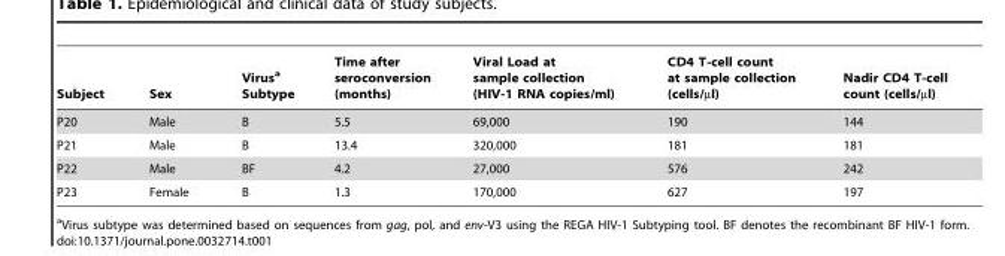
<table><thead><tr><td>Subject</td><td>Sex</td><td>Virus<sup>a</sup> Subtype</td><td>Time after seroconversion (months)</td><td>Viral Load at sample collection (HIV-1 RNA copies/ml)</td><td>CD4 T-cell count at sample collection (cells/µl)</td><td>Nadir CD4 T-cell count (cells/µl)</td></tr></thead><tbody><tr><td>P20</td><td>Male</td><td>B</td><td>5.5</td><td>69,000</td><td>190</td><td>144</td></tr><tr><td>P21</td><td>Male</td><td>B</td><td>13.4</td><td>320,000</td><td>181</td><td>181</td></tr><tr><td>P22</td><td>Male</td><td>BF</td><td>4.2</td><td>27,000</td><td>576</td><td>242</td></tr><tr><td>P23</td><td>Female</td><td>B</td><td>1.3</td><td>170,000</td><td>627</td><td>197</td></tr></tbody></table>